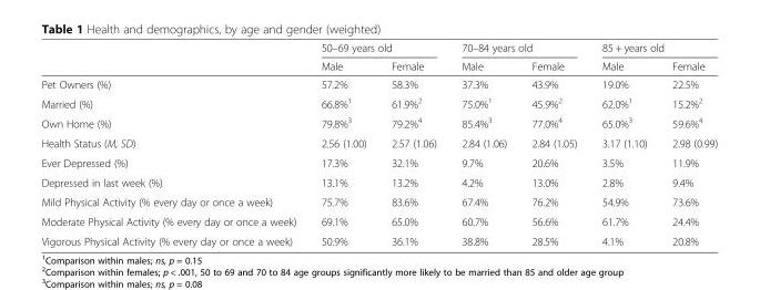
<table><thead><tr><td rowspan="2"></td><td colspan="2">50–69 years old</td><td colspan="2">70–84 years old</td><td colspan="2">85 + years old</td></tr><tr><td>Male</td><td>Female</td><td>Male</td><td>Female</td><td>Male</td><td>Female</td></tr></thead><tbody><tr><td>Pet Owners (%)</td><td>57.2%</td><td>58.3%</td><td>37.3%</td><td>43.9%</td><td>19.0%</td><td>22.5%</td></tr><tr><td>Married (%)</td><td>66.8%<sup>1</sup></td><td>61.9%<sup>2</sup></td><td>75.0%<sup>1</sup></td><td>45.9%<sup>2</sup></td><td>62.0%<sup>1</sup></td><td>15.2%<sup>2</sup></td></tr><tr><td>Own Home (%)</td><td>79.8%<sup>3</sup></td><td>79.2%<sup>4</sup></td><td>85.4%<sup>3</sup></td><td>77.0%<sup>4</sup></td><td>65.0%<sup>3</sup></td><td>59.6%<sup>4</sup></td></tr><tr><td>Health Status (M, SD)</td><td>2.56 (1.00)</td><td>2.57 (1.06)</td><td>2.84 (1.06)</td><td>2.84 (1.05)</td><td>3.17 (1.10)</td><td>2.98 (0.99)</td></tr><tr><td>Ever Depressed (%)</td><td>17.3%</td><td>32.1%</td><td>9.7%</td><td>20.6%</td><td>3.5%</td><td>11.9%</td></tr><tr><td>Depressed in last week (%)</td><td>13.1%</td><td>13.2%</td><td>4.2%</td><td>13.0%</td><td>2.8%</td><td>9.4%</td></tr><tr><td>Mild Physical Activity (% every day or once a week)</td><td>75.7%</td><td>83.6%</td><td>67.4%</td><td>76.2%</td><td>54.9%</td><td>73.6%</td></tr><tr><td>Moderate Physical Activity (% every day or once a week)</td><td>69.1%</td><td>65.0%</td><td>60.7%</td><td>56.6%</td><td>61.7%</td><td>24.4%</td></tr><tr><td>Vigorous Physical Activity (% every day or once a week)</td><td>50.9%</td><td>36.1%</td><td>38.8%</td><td>28.5%</td><td>4.1%</td><td>20.8%</td></tr></tbody></table>